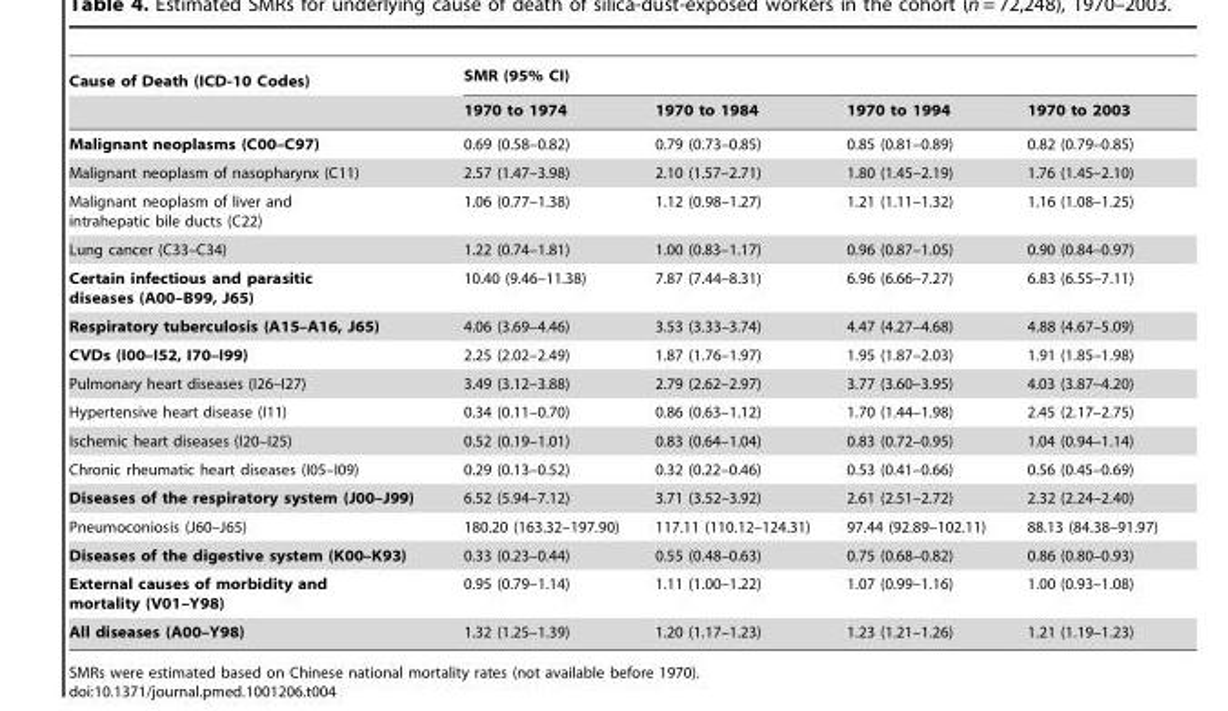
<table><thead><tr><td rowspan="2">Cause of Death (ICD-10 Codes)</td><td colspan="4">SMR (95% CI)</td></tr><tr><td>1970 to 1974</td><td>1970 to 1984</td><td>1970 to 1994</td><td>1970 to 2003</td></tr></thead><tbody><tr><td>Malignant neoplasms (C00–C97)</td><td>0.69 (0.58–0.82)</td><td>0.79 (0.73–0.85)</td><td>0.85 (0.81–0.89)</td><td>0.82 (0.79–0.85)</td></tr><tr><td>Malignant neoplasm of nasopharynx (C11)</td><td>2.57 (1.47–3.98)</td><td>2.10 (1.57–2.71)</td><td>1.80 (1.45–2.19)</td><td>1.76 (1.45–2.10)</td></tr><tr><td>Malignant neoplasm of liver and intrahepatic bile ducts (C22)</td><td>1.06 (0.77–1.38)</td><td>1.12 (0.98–1.27)</td><td>1.21 (1.11–1.32)</td><td>1.16 (1.08–1.25)</td></tr><tr><td>Lung cancer (C33–C34)</td><td>1.22 (0.74–1.81)</td><td>1.00 (0.83–1.17)</td><td>0.96 (0.87–1.05)</td><td>0.90 (0.84–0.97)</td></tr><tr><td>Certain infectious and parasitic diseases (A00–B99, J65)</td><td>10.40 (9.46–11.38)</td><td>7.87 (7.44–8.31)</td><td>6.96 (6.66–7.27)</td><td>6.83 (6.55–7.11)</td></tr><tr><td>Respiratory tuberculosis (A15–A16, J65)</td><td>4.06 (3.69–4.46)</td><td>3.53 (3.33–3.74)</td><td>4.47 (4.27–4.68)</td><td>4.88 (4.67–5.09)</td></tr><tr><td>CVDs (I00–I52, I70–I99)</td><td>2.25 (2.02–2.49)</td><td>1.87 (1.76–1.97)</td><td>1.95 (1.87–2.03)</td><td>1.91 (1.85–1.98)</td></tr><tr><td>Pulmonary heart diseases (I26–I27)</td><td>3.49 (3.12–3.88)</td><td>2.79 (2.62–2.97)</td><td>3.77 (3.60–3.95)</td><td>4.03 (3.87–4.20)</td></tr><tr><td>Hypertensive heart disease (I11)</td><td>0.34 (0.11–0.70)</td><td>0.86 (0.63–1.12)</td><td>1.70 (1.44–1.98)</td><td>2.45 (2.17–2.75)</td></tr><tr><td>Ischemic heart diseases (I20–I25)</td><td>0.52 (0.19–1.01)</td><td>0.83 (0.64–1.04)</td><td>0.83 (0.72–0.95)</td><td>1.04 (0.94–1.14)</td></tr><tr><td>Chronic rheumatic heart diseases (I05–I09)</td><td>0.29 (0.13–0.52)</td><td>0.32 (0.22–0.46)</td><td>0.53 (0.41–0.66)</td><td>0.56 (0.45–0.69)</td></tr><tr><td>Diseases of the respiratory system (J00–J99)</td><td>6.52 (5.94–7.12)</td><td>3.71 (3.52–3.92)</td><td>2.61 (2.51–2.72)</td><td>2.32 (2.24–2.40)</td></tr><tr><td>Pneumoconiosis (J60–J65)</td><td>180.20 (163.32–197.90)</td><td>117.11 (110.12–124.31)</td><td>97.44 (92.89–102.11)</td><td>88.13 (84.38–91.97)</td></tr><tr><td>Diseases of the digestive system (K00–K93)</td><td>0.33 (0.23–0.44)</td><td>0.55 (0.48–0.63)</td><td>0.75 (0.68–0.82)</td><td>0.86 (0.80–0.93)</td></tr><tr><td>External causes of morbidity and mortality (V01–Y98)</td><td>0.95 (0.79–1.14)</td><td>1.11 (1.00–1.22)</td><td>1.07 (0.99–1.16)</td><td>1.00 (0.93–1.08)</td></tr><tr><td>All diseases (A00–Y98)</td><td>1.32 (1.25–1.39)</td><td>1.20 (1.17–1.23)</td><td>1.23 (1.21–1.26)</td><td>1.21 (1.19–1.23)</td></tr></tbody></table>